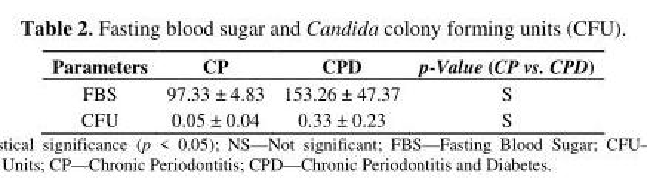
<table><thead><tr><td>Parameters</td><td>CP</td><td>CPD</td><td>p-Value (CP vs. CPD)</td></tr></thead><tbody><tr><td>FBS</td><td>97.33 ± 4.83</td><td>153.26 ± 47.37</td><td>S</td></tr><tr><td>CFU</td><td>0.05 ± 0.04</td><td>0.33 ± 0.23</td><td>S</td></tr></tbody></table>